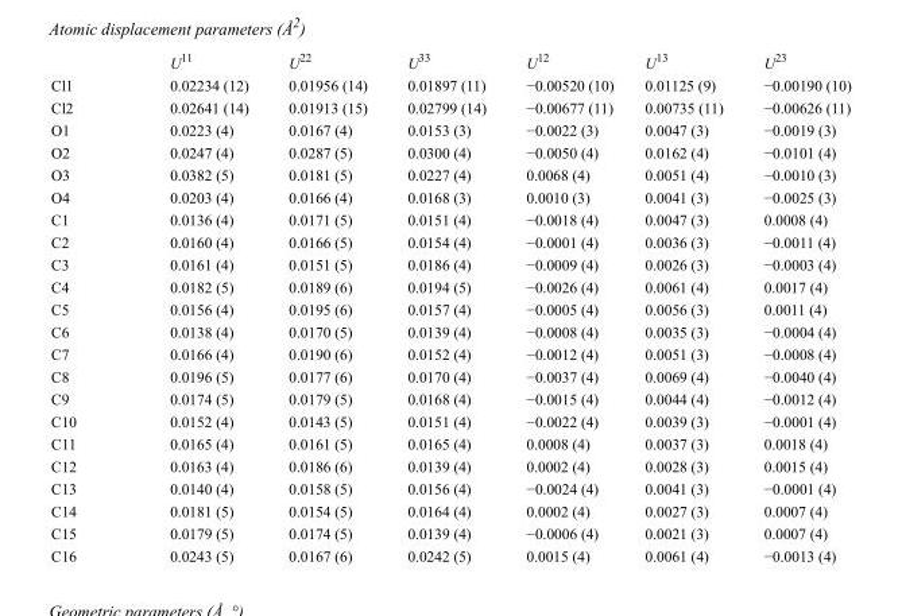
<table><thead><tr><td></td><td>U<sup>11</sup></td><td>U<sup>22</sup></td><td>U<sup>33</sup></td><td>U<sup>12</sup></td><td>U<sup>13</sup></td><td>U<sup>23</sup></td></tr></thead><tbody><tr><td>Cl1</td><td>0.02234 (12)</td><td>0.01956 (14)</td><td>0.01897 (11)</td><td>−0.00520 (10)</td><td>0.01125 (9)</td><td>−0.00190 (10)</td></tr><tr><td>Cl2</td><td>0.02641 (14)</td><td>0.01913 (15)</td><td>0.02799 (14)</td><td>−0.00677 (11)</td><td>0.00735 (11)</td><td>−0.00626 (11)</td></tr><tr><td>O1</td><td>0.0223 (4)</td><td>0.0167 (4)</td><td>0.0153 (3)</td><td>−0.0022 (3)</td><td>0.0047 (3)</td><td>−0.0019 (3)</td></tr><tr><td>O2</td><td>0.0247 (4)</td><td>0.0287 (5)</td><td>0.0300 (4)</td><td>−0.0050 (4)</td><td>0.0162 (4)</td><td>−0.0101 (4)</td></tr><tr><td>O3</td><td>0.0382 (5)</td><td>0.0181 (5)</td><td>0.0227 (4)</td><td>0.0068 (4)</td><td>0.0051 (4)</td><td>−0.0010 (3)</td></tr><tr><td>O4</td><td>0.0203 (4)</td><td>0.0166 (4)</td><td>0.0168 (3)</td><td>0.0010 (3)</td><td>0.0041 (3)</td><td>−0.0025 (3)</td></tr><tr><td>C1</td><td>0.0136 (4)</td><td>0.0171 (5)</td><td>0.0151 (4)</td><td>−0.0018 (4)</td><td>0.0047 (3)</td><td>0.0008 (4)</td></tr><tr><td>C2</td><td>0.0160 (4)</td><td>0.0166 (5)</td><td>0.0154 (4)</td><td>−0.0001 (4)</td><td>0.0036 (3)</td><td>−0.0011 (4)</td></tr><tr><td>C3</td><td>0.0161 (4)</td><td>0.0151 (5)</td><td>0.0186 (4)</td><td>−0.0009 (4)</td><td>0.0026 (3)</td><td>−0.0003 (4)</td></tr><tr><td>C4</td><td>0.0182 (5)</td><td>0.0189 (6)</td><td>0.0194 (5)</td><td>−0.0026 (4)</td><td>0.0061 (4)</td><td>0.0017 (4)</td></tr><tr><td>C5</td><td>0.0156 (4)</td><td>0.0195 (6)</td><td>0.0157 (4)</td><td>−0.0005 (4)</td><td>0.0056 (3)</td><td>0.0011 (4)</td></tr><tr><td>C6</td><td>0.0138 (4)</td><td>0.0170 (5)</td><td>0.0139 (4)</td><td>−0.0008 (4)</td><td>0.0035 (3)</td><td>−0.0004 (4)</td></tr><tr><td>C7</td><td>0.0166 (4)</td><td>0.0190 (6)</td><td>0.0152 (4)</td><td>−0.0012 (4)</td><td>0.0051 (3)</td><td>−0.0008 (4)</td></tr><tr><td>C8</td><td>0.0196 (5)</td><td>0.0177 (6)</td><td>0.0170 (4)</td><td>−0.0037 (4)</td><td>0.0069 (4)</td><td>−0.0040 (4)</td></tr><tr><td>C9</td><td>0.0174 (5)</td><td>0.0179 (5)</td><td>0.0168 (4)</td><td>−0.0015 (4)</td><td>0.0044 (4)</td><td>−0.0012 (4)</td></tr><tr><td>C10</td><td>0.0152 (4)</td><td>0.0143 (5)</td><td>0.0151 (4)</td><td>−0.0022 (4)</td><td>0.0039 (3)</td><td>−0.0001 (4)</td></tr><tr><td>C11</td><td>0.0165 (4)</td><td>0.0161 (5)</td><td>0.0165 (4)</td><td>0.0008 (4)</td><td>0.0037 (3)</td><td>0.0018 (4)</td></tr><tr><td>C12</td><td>0.0163 (4)</td><td>0.0186 (6)</td><td>0.0139 (4)</td><td>0.0002 (4)</td><td>0.0028 (3)</td><td>0.0015 (4)</td></tr><tr><td>C13</td><td>0.0140 (4)</td><td>0.0158 (5)</td><td>0.0156 (4)</td><td>−0.0024 (4)</td><td>0.0041 (3)</td><td>−0.0001 (4)</td></tr><tr><td>C14</td><td>0.0181 (5)</td><td>0.0154 (5)</td><td>0.0164 (4)</td><td>0.0002 (4)</td><td>0.0027 (3)</td><td>0.0007 (4)</td></tr><tr><td>C15</td><td>0.0179 (5)</td><td>0.0174 (5)</td><td>0.0139 (4)</td><td>−0.0006 (4)</td><td>0.0021 (3)</td><td>0.0007 (4)</td></tr><tr><td>C16</td><td>0.0243 (5)</td><td>0.0167 (6)</td><td>0.0242 (5)</td><td>0.0015 (4)</td><td>0.0061 (4)</td><td>−0.0013 (4)</td></tr></tbody></table>